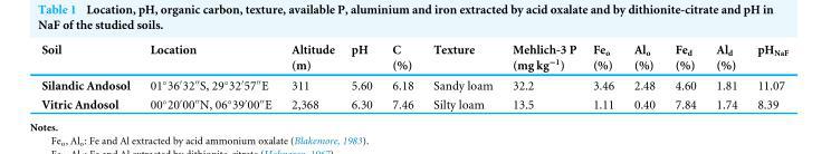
<table><thead><tr><td>Soil</td><td>Location</td><td>Altitude (m)</td><td>pH</td><td>C (%)</td><td>Texture</td><td>Mehlich-3 P (mg kg<sup>−1</sup>)</td><td>Fe<sub>o</sub> (%)</td><td>Al<sub>o</sub> (%)</td><td>Fe<sub>d</sub> (%)</td><td>Al<sub>d</sub> (%)</td><td>pH<sub>NaF</sub></td></tr></thead><tbody><tr><td>Silandic Andosol</td><td>01◦36′32′′S, 29◦32′57′′E</td><td>311</td><td>5.60</td><td>6.18</td><td>Sandy loam</td><td>32.2</td><td>3.46</td><td>2.48</td><td>4.60</td><td>1.81</td><td>11.07</td></tr><tr><td>Vitric Andosol</td><td>00◦20′00′′N, 06◦39′00′′E</td><td>2,368</td><td>6.30</td><td>7.46</td><td>Silty loam</td><td>13.5</td><td>1.11</td><td>0.40</td><td>7.84</td><td>1.74</td><td>8.39</td></tr></tbody></table>